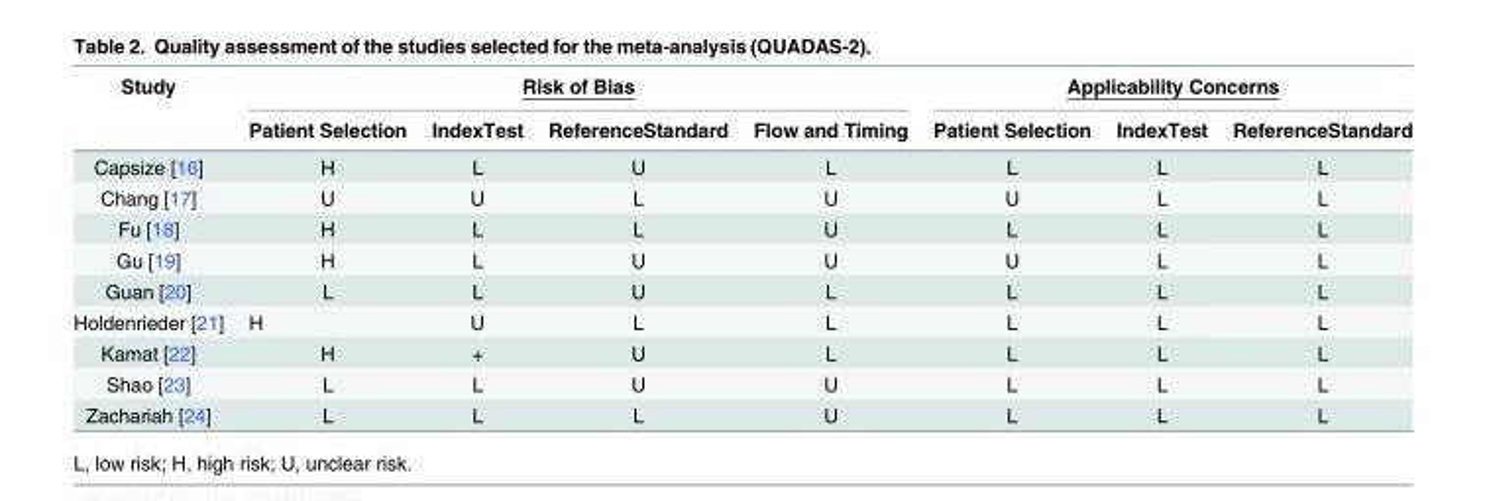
<table><thead><tr><td rowspan="2">Study</td><td colspan="4">Risk of Bias</td><td colspan="3">Applicability Concerns</td></tr><tr><td>Patient Selection</td><td>IndexTest</td><td>ReferenceStandard</td><td>Flow and Timing</td><td>Patient Selection</td><td>IndexTest</td><td>ReferenceStandard</td></tr></thead><tbody><tr><td>Capsize [16]</td><td>H</td><td>L</td><td>U</td><td>L</td><td>L</td><td>L</td><td>L</td></tr><tr><td>Chang [17]</td><td>U</td><td>U</td><td>L</td><td>U</td><td>U</td><td>L</td><td>L</td></tr><tr><td>Fu [18]</td><td>H</td><td>L</td><td>L</td><td>U</td><td>L</td><td>L</td><td>L</td></tr><tr><td>Gu [19]</td><td>H</td><td>L</td><td>U</td><td>U</td><td>U</td><td>L</td><td>L</td></tr><tr><td>Guan [20]</td><td>L</td><td>L</td><td>U</td><td>L</td><td>L</td><td>L</td><td>L</td></tr><tr><td>Holdenrieder [21]</td><td>H</td><td>U</td><td>L</td><td>L</td><td>L</td><td>L</td><td>L</td></tr><tr><td>Kamat [22]</td><td>H</td><td>+</td><td>U</td><td>L</td><td>L</td><td>L</td><td>L</td></tr><tr><td>Shao [23]</td><td>L</td><td>L</td><td>U</td><td>U</td><td>L</td><td>L</td><td>L</td></tr><tr><td>Zachariah [24]</td><td>L</td><td>L</td><td>L</td><td>U</td><td>L</td><td>L</td><td>L</td></tr></tbody></table>